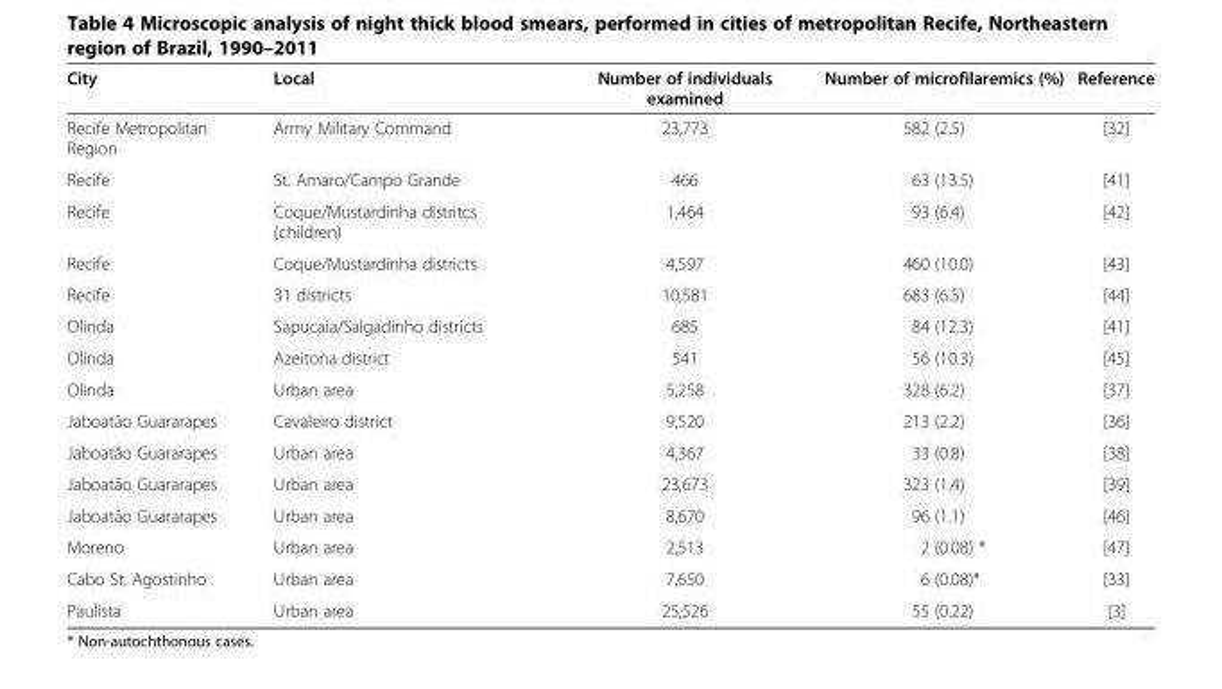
<table><thead><tr><td>City</td><td>Local</td><td>Number of individuals examined</td><td>Number of microfilaremics (%)</td><td>Reference</td></tr></thead><tbody><tr><td>Recife Metropolitan Region</td><td>Army Military Command</td><td>23,773</td><td>582 (2.5)</td><td>[32]</td></tr><tr><td>Recife</td><td>St. Amaro/Campo Grande</td><td>466</td><td>63 (13.5)</td><td>[41]</td></tr><tr><td>Recife</td><td>Coque/Mustardinha distritcs (children)</td><td>1,464</td><td>93 (6.4)</td><td>[42]</td></tr><tr><td>Recife</td><td>Coque/Mustardinha districts</td><td>4,597</td><td>460 (10.0)</td><td>[43]</td></tr><tr><td>Recife</td><td>31 districts</td><td>10,581</td><td>683 (6.5)</td><td>[44]</td></tr><tr><td>Olinda</td><td>Sapucaia/Salgadinho districts</td><td>685</td><td>84 (12.3)</td><td>[41]</td></tr><tr><td>Olinda</td><td>Azeitona district</td><td>541</td><td>56 (10.3)</td><td>[45]</td></tr><tr><td>Olinda</td><td>Urban area</td><td>5,258</td><td>328 (6.2)</td><td>[37]</td></tr><tr><td>Jaboatão Guararapes</td><td>Cavaleiro district</td><td>9,520</td><td>213 (2.2)</td><td>[36]</td></tr><tr><td>Jaboatão Guararapes</td><td>Urban area</td><td>4,367</td><td>33 (0.8)</td><td>[38]</td></tr><tr><td>Jaboatão Guararapes</td><td>Urban area</td><td>23,673</td><td>323 (1.4)</td><td>[39]</td></tr><tr><td>Jaboatão Guararapes</td><td>Urban area</td><td>8,670</td><td>96 (1.1)</td><td>[46]</td></tr><tr><td>Moreno</td><td>Urban area</td><td>2,513</td><td>2 (0.08) *</td><td>[47]</td></tr><tr><td>Cabo St. Agostinho</td><td>Urban area</td><td>7,650</td><td>6 (0.08)*</td><td>[33]</td></tr><tr><td>Paulista</td><td>Urban area</td><td>25,526</td><td>55 (0.22)</td><td>[3]</td></tr></tbody></table>